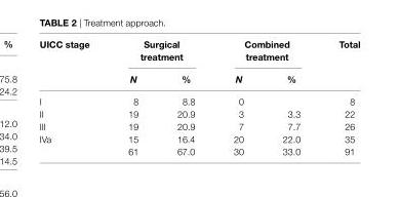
<table><thead><tr><td rowspan="2">Uicc stage</td><td colspan="2">surgical treatment</td><td colspan="2">combined treatment</td><td rowspan="2">Total</td></tr><tr><td>N</td><td>%</td><td>N</td><td>%</td></tr></thead><tbody><tr><td>I</td><td>8</td><td>8.8</td><td>0</td><td></td><td>8</td></tr><tr><td>II</td><td>19</td><td>20.9</td><td>3</td><td>3.3</td><td>22</td></tr><tr><td>III</td><td>19</td><td>20.9</td><td>7</td><td>7.7</td><td>26</td></tr><tr><td rowspan="2">IVa</td><td>15</td><td>16.4</td><td>20</td><td>22.0</td><td>35</td></tr><tr><td>61</td><td>67.0</td><td>30</td><td>33.0</td><td>91</td></tr></tbody></table>